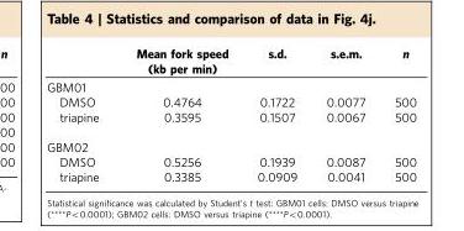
<table><thead><tr><td></td><td>Mean fork speed (kb per min)</td><td>s.d.</td><td>s.e.m.</td><td>n</td></tr></thead><tbody><tr><td colspan="5">GBM01</td></tr><tr><td>DMSO</td><td>0.4764</td><td>0.1722</td><td>0.0077</td><td>500</td></tr><tr><td>triapine</td><td>0.3595</td><td>0.1507</td><td>0.0067</td><td>500</td></tr><tr><td colspan="5">GBM02</td></tr><tr><td>DMSO</td><td>0.5256</td><td>0.1939</td><td>0.0087</td><td>500</td></tr><tr><td>triapine</td><td>0.3385</td><td>0.0909</td><td>0.0041</td><td>500</td></tr></tbody></table>